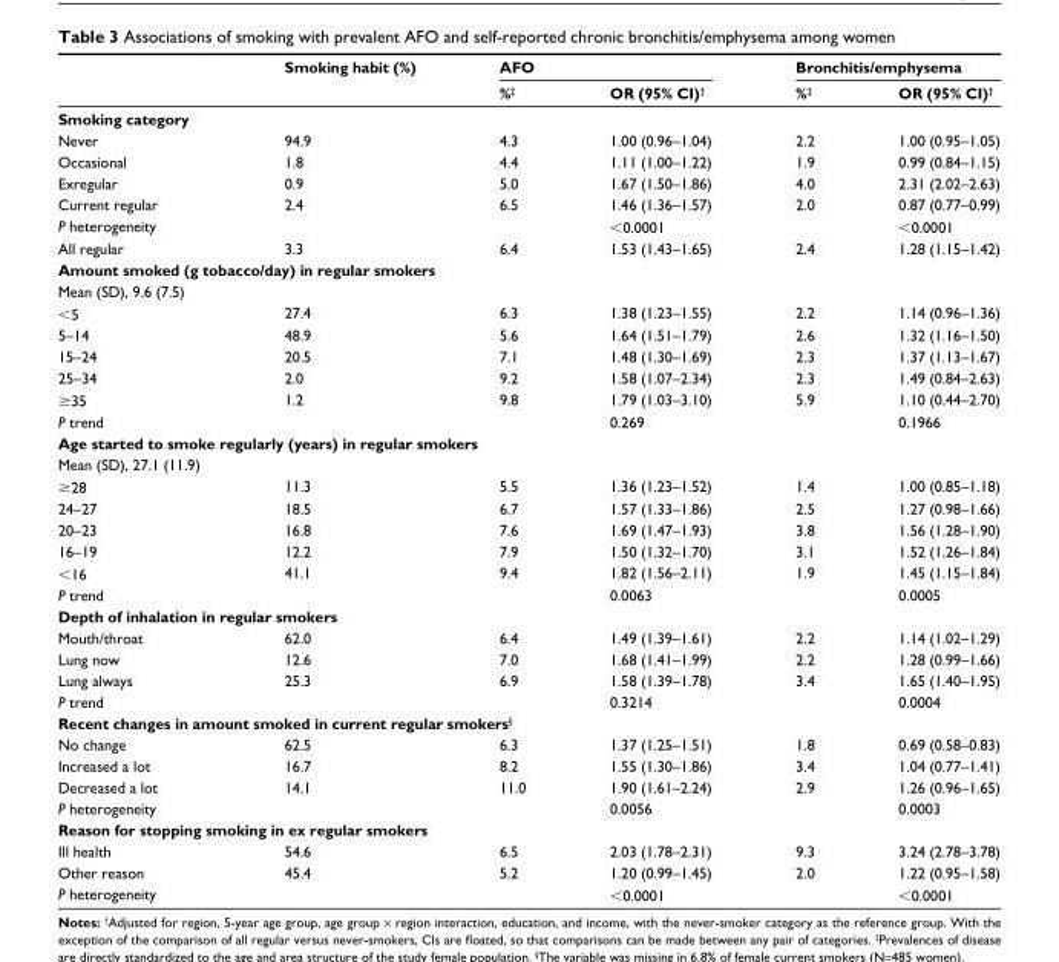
<table><thead><tr><td rowspan="2"></td><td rowspan="2">Smoking habit (%)</td><td colspan="2">AFO</td><td colspan="2">Bronchitis/emphysema</td></tr><tr><td>%‡</td><td>OR (95% CI)†</td><td>%‡</td><td>OR (95% CI)†</td></tr></thead><tbody><tr><td colspan="6">Smoking category</td></tr><tr><td>never</td><td>94.9</td><td>4.3</td><td>1.00 (0.96–1.04)</td><td>2.2</td><td>1.00 (0.95–1.05)</td></tr><tr><td>Occasional</td><td>1.8</td><td>4.4</td><td>1.11 (1.00–1.22)</td><td>1.9</td><td>0.99 (0.84–1.15)</td></tr><tr><td>exregular</td><td>0.9</td><td>5.0</td><td>1.67 (1.50–1.86)</td><td>4.0</td><td>2.31 (2.02–2.63)</td></tr><tr><td>Current regular</td><td>2.4</td><td>6.5</td><td>1.46 (1.36–1.57)</td><td>2.0</td><td>0.87 (0.77–0.99)</td></tr><tr><td>P heterogeneity</td><td></td><td></td><td>&lt;0.0001</td><td></td><td>&lt;0.0001</td></tr><tr><td>all regular</td><td>3.3</td><td>6.4</td><td>1.53 (1.43–1.65)</td><td>2.4</td><td>1.28 (1.15–1.42)</td></tr><tr><td colspan="6">Amount smoked (g tobacco/day) in regular smokers</td></tr><tr><td colspan="6">Mean (SD), 9.6 (7.5)</td></tr><tr><td>&lt;5</td><td>27.4</td><td>6.3</td><td>1.38 (1.23–1.55)</td><td>2.2</td><td>1.14 (0.96–1.36)</td></tr><tr><td>5–14</td><td>48.9</td><td>5.6</td><td>1.64 (1.51–1.79)</td><td>2.6</td><td>1.32 (1.16–1.50)</td></tr><tr><td>15–24</td><td>20.5</td><td>7.1</td><td>1.48 (1.30–1.69)</td><td>2.3</td><td>1.37 (1.13–1.67)</td></tr><tr><td>25–34</td><td>2.0</td><td>9.2</td><td>1.58 (1.07–2.34)</td><td>2.3</td><td>1.49 (0.84–2.63)</td></tr><tr><td>≥35</td><td>1.2</td><td>9.8</td><td>1.79 (1.03–3.10)</td><td>5.9</td><td>1.10 (0.44–2.70)</td></tr><tr><td>P trend</td><td></td><td></td><td>0.269</td><td></td><td>0.1966</td></tr><tr><td colspan="6">Age started to smoke regularly (years) in regular smokers</td></tr><tr><td colspan="6">Mean (SD), 27.1 (11.9)</td></tr><tr><td>≥28</td><td>11.3</td><td>5.5</td><td>1.36 (1.23–1.52)</td><td>1.4</td><td>1.00 (0.85–1.18)</td></tr><tr><td>24–27</td><td>18.5</td><td>6.7</td><td>1.57 (1.33–1.86)</td><td>2.5</td><td>1.27 (0.98–1.66)</td></tr><tr><td>20–23</td><td>16.8</td><td>7.6</td><td>1.69 (1.47–1.93)</td><td>3.8</td><td>1.56 (1.28–1.90)</td></tr><tr><td>16–19</td><td>12.2</td><td>7.9</td><td>1.50 (1.32–1.70)</td><td>3.1</td><td>1.52 (1.26–1.84)</td></tr><tr><td>&lt;16</td><td>41.1</td><td>9.4</td><td>1.82 (1.56–2.11)</td><td>1.9</td><td>1.45 (1.15–1.84)</td></tr><tr><td>P trend</td><td></td><td></td><td>0.0063</td><td></td><td>0.0005</td></tr><tr><td colspan="6">Depth of inhalation in regular smokers</td></tr><tr><td>Mouth/throat</td><td>62.0</td><td>6.4</td><td>1.49 (1.39–1.61)</td><td>2.2</td><td>1.14 (1.02–1.29)</td></tr><tr><td>lung now</td><td>12.6</td><td>7.0</td><td>1.68 (1.41–1.99)</td><td>2.2</td><td>1.28 (0.99–1.66)</td></tr><tr><td>lung always</td><td>25.3</td><td>6.9</td><td>1.58 (1.39–1.78)</td><td>3.4</td><td>1.65 (1.40–1.95)</td></tr><tr><td>P trend</td><td></td><td></td><td>0.3214</td><td></td><td>0.0004</td></tr><tr><td colspan="6">Recent changes in amount smoked in current regular smokers§</td></tr><tr><td>no change</td><td>62.5</td><td>6.3</td><td>1.37 (1.25–1.51)</td><td>1.8</td><td>0.69 (0.58–0.83)</td></tr><tr><td>Increased a lot</td><td>16.7</td><td>8.2</td><td>1.55 (1.30–1.86)</td><td>3.4</td><td>1.04 (0.77–1.41)</td></tr><tr><td>Decreased a lot</td><td>14.1</td><td>11.0</td><td>1.90 (1.61–2.24)</td><td>2.9</td><td>1.26 (0.96–1.65)</td></tr><tr><td>P heterogeneity</td><td></td><td></td><td>0.0056</td><td></td><td>0.0003</td></tr><tr><td colspan="6">Reason for stopping smoking in ex regular smokers</td></tr><tr><td>Ill health</td><td>54.6</td><td>6.5</td><td>2.03 (1.78–2.31)</td><td>9.3</td><td>3.24 (2.78–3.78)</td></tr><tr><td>Other reason</td><td>45.4</td><td>5.2</td><td>1.20 (0.99–1.45)</td><td>2.0</td><td>1.22 (0.95–1.58)</td></tr><tr><td>P heterogeneity</td><td></td><td></td><td>&lt;0.0001</td><td></td><td>&lt;0.0001</td></tr></tbody></table>